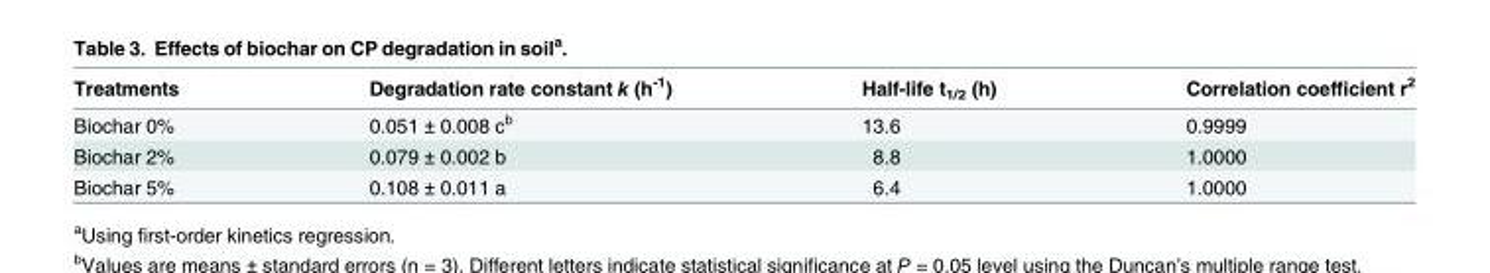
<table><thead><tr><td>Treatments</td><td>Degradation rate constant k (h<sup>-1</sup>)</td><td>Half-life t<sub>1/2</sub> (h)</td><td>Correlation coefficient r<sup>2</sup></td></tr></thead><tbody><tr><td>Biochar 0%</td><td>0.051 ± 0.008 c<sup>b</sup></td><td>13.6</td><td>0.9999</td></tr><tr><td>Biochar 2%</td><td>0.079 ± 0.002 b</td><td>8.8</td><td>1.0000</td></tr><tr><td>Biochar 5%</td><td>0.108 ± 0.011 a</td><td>6.4</td><td>1.0000</td></tr></tbody></table>